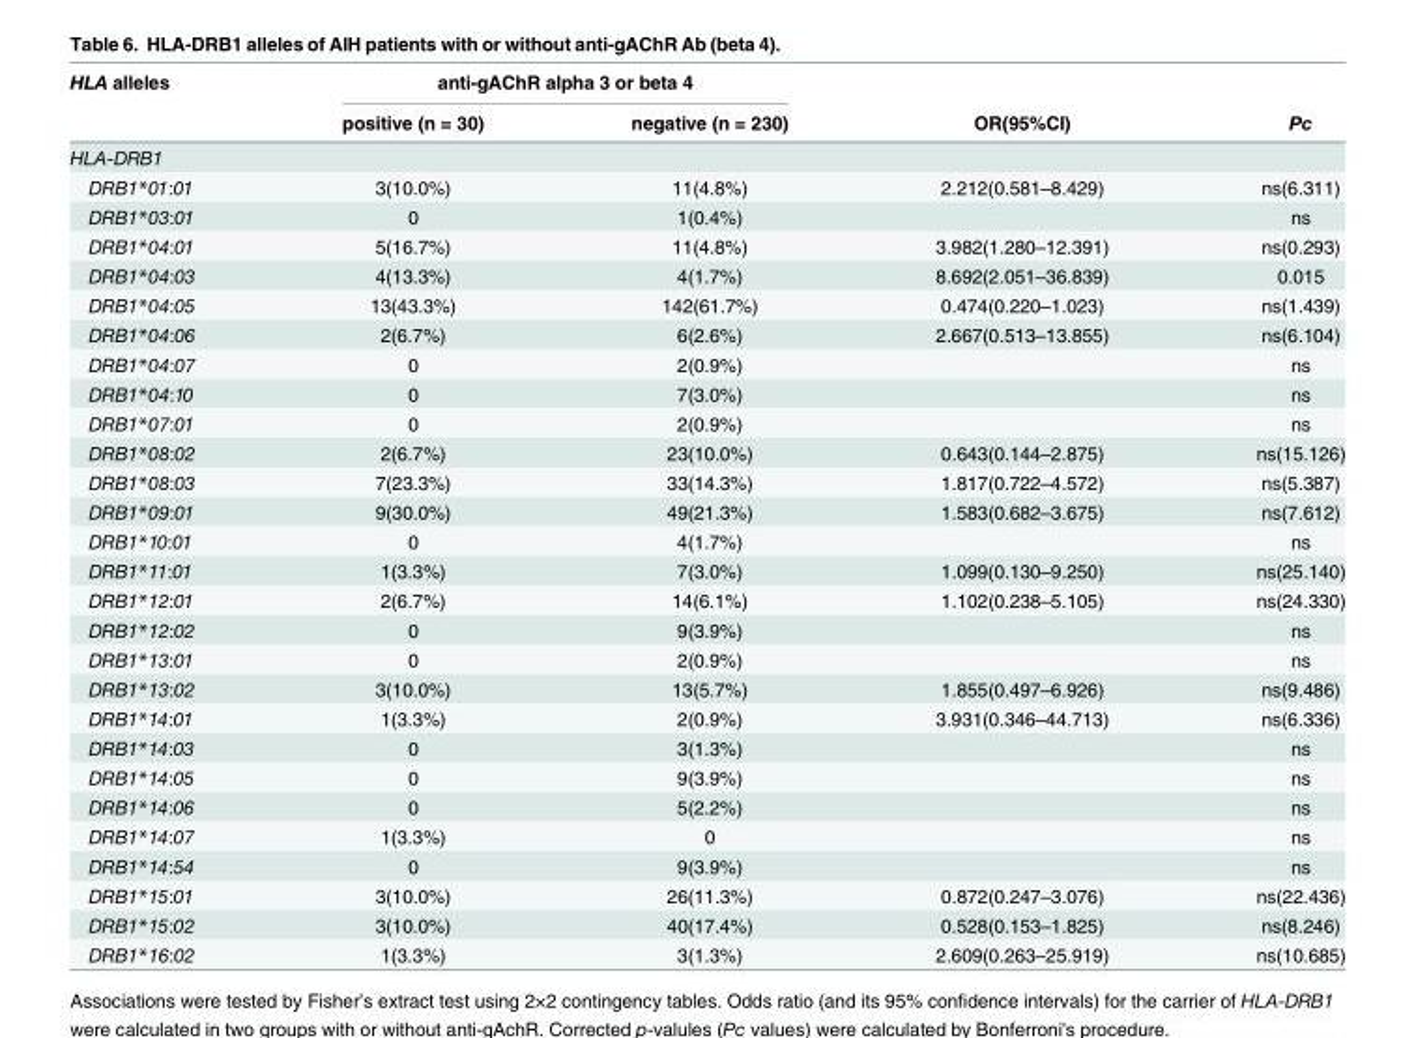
<table><thead><tr><td rowspan="2">HLA alleles</td><td colspan="2">anti-gAChR alpha 3 or beta 4</td><td rowspan="2">OR(95%CI)</td><td rowspan="2">Pc</td></tr><tr><td>positive (n = 30)</td><td>negative (n = 230)</td></tr></thead><tbody><tr><td colspan="5">HLA-DRB1</td></tr><tr><td>DRB1*01:01</td><td>3(10.0%)</td><td>11(4.8%)</td><td>2.212(0.581–8.429)</td><td>ns(6.311)</td></tr><tr><td>DRB1*03:01</td><td>0</td><td>1(0.4%)</td><td></td><td>ns</td></tr><tr><td>DRB1*04:01</td><td>5(16.7%)</td><td>11(4.8%)</td><td>3.982(1.280–12.391)</td><td>ns(0.293)</td></tr><tr><td>DRB1*04:03</td><td>4(13.3%)</td><td>4(1.7%)</td><td>8.692(2.051–36.839)</td><td>0.015</td></tr><tr><td>DRB1*04:05</td><td>13(43.3%)</td><td>142(61.7%)</td><td>0.474(0.220–1.023)</td><td>ns(1.439)</td></tr><tr><td>DRB1*04:06</td><td>2(6.7%)</td><td>6(2.6%)</td><td>2.667(0.513–13.855)</td><td>ns(6.104)</td></tr><tr><td>DRB1*04:07</td><td>0</td><td>2(0.9%)</td><td></td><td>ns</td></tr><tr><td>DRB1*04:10</td><td>0</td><td>7(3.0%)</td><td></td><td>ns</td></tr><tr><td>DRB1*07:01</td><td>0</td><td>2(0.9%)</td><td></td><td>ns</td></tr><tr><td>DRB1*08:02</td><td>2(6.7%)</td><td>23(10.0%)</td><td>0.643(0.144–2.875)</td><td>ns(15.126)</td></tr><tr><td>DRB1*08:03</td><td>7(23.3%)</td><td>33(14.3%)</td><td>1.817(0.722–4.572)</td><td>ns(5.387)</td></tr><tr><td>DRB1*09:01</td><td>9(30.0%)</td><td>49(21.3%)</td><td>1.583(0.682–3.675)</td><td>ns(7.612)</td></tr><tr><td>DRB1*10:01</td><td>0</td><td>4(1.7%)</td><td></td><td>ns</td></tr><tr><td>DRB1*11:01</td><td>1(3.3%)</td><td>7(3.0%)</td><td>1.099(0.130–9.250)</td><td>ns(25.140)</td></tr><tr><td>DRB1*12:01</td><td>2(6.7%)</td><td>14(6.1%)</td><td>1.102(0.238–5.105)</td><td>ns(24.330)</td></tr><tr><td>DRB1*12:02</td><td>0</td><td>9(3.9%)</td><td></td><td>ns</td></tr><tr><td>DRB1*13:01</td><td>0</td><td>2(0.9%)</td><td></td><td>ns</td></tr><tr><td>DRB1*13:02</td><td>3(10.0%)</td><td>13(5.7%)</td><td>1.855(0.497–6.926)</td><td>ns(9.486)</td></tr><tr><td>DRB1*14:01</td><td>1(3.3%)</td><td>2(0.9%)</td><td>3.931(0.346–44.713)</td><td>ns(6.336)</td></tr><tr><td>DRB1*14:03</td><td>0</td><td>3(1.3%)</td><td></td><td>ns</td></tr><tr><td>DRB1*14:05</td><td>0</td><td>9(3.9%)</td><td></td><td>ns</td></tr><tr><td>DRB1*14:06</td><td>0</td><td>5(2.2%)</td><td></td><td>ns</td></tr><tr><td>DRB1*14:07</td><td>1(3.3%)</td><td>0</td><td></td><td>ns</td></tr><tr><td>DRB1*14:54</td><td>0</td><td>9(3.9%)</td><td></td><td>ns</td></tr><tr><td>DRB1*15:01</td><td>3(10.0%)</td><td>26(11.3%)</td><td>0.872(0.247–3.076)</td><td>ns(22.436)</td></tr><tr><td>DRB1*15:02</td><td>3(10.0%)</td><td>40(17.4%)</td><td>0.528(0.153–1.825)</td><td>ns(8.246)</td></tr><tr><td>DRB1*16:02</td><td>1(3.3%)</td><td>3(1.3%)</td><td>2.609(0.263–25.919)</td><td>ns(10.685)</td></tr></tbody></table>